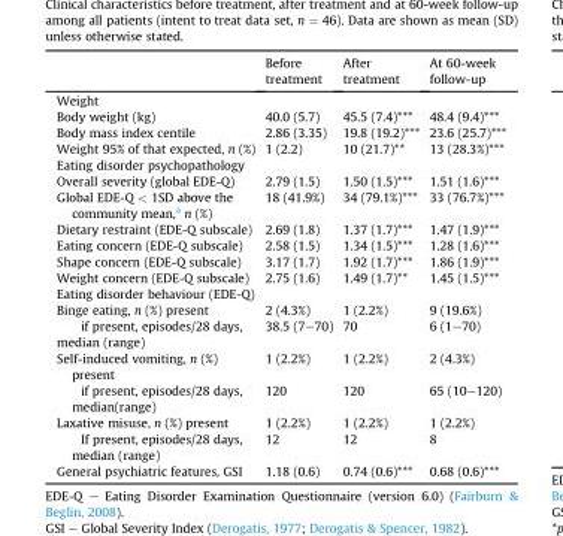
<table><thead><tr><td></td><td>Before treatment</td><td>After treatment</td><td>At 60-week follow-up</td></tr></thead><tbody><tr><td colspan="4">Weight</td></tr><tr><td>Body weight (kg)</td><td>40.0 (5.7)</td><td>45.5 (7.4)***</td><td>48.4 (9.4)***</td></tr><tr><td>Body mass index centile</td><td>2.86 (3.35)</td><td>19.8 (19.2)***</td><td>23.6 (25.7)***</td></tr><tr><td>Weight 95% of that expected, n (%)</td><td>1 (2.2)</td><td>10 (21.7)**</td><td>13 (28.3%)***</td></tr><tr><td colspan="4">Eating disorder psychopathology</td></tr><tr><td>Overall severity (global EDE-Q)</td><td>2.79 (1.5)</td><td>1.50 (1.5)***</td><td>1.51 (1.6)***</td></tr><tr><td>Global EDE-Q &lt; 1SD above the community mean,<sup>a</sup> n (%)</td><td>18 (41.9%)</td><td>34 (79.1%)***</td><td>33 (76.7%)***</td></tr><tr><td>Dietary restraint (EDE-Q subscale)</td><td>2.69 (1.8)</td><td>1.37 (1.7)***</td><td>1.47 (1.9)***</td></tr><tr><td>Eating concern (EDE-Q subscale)</td><td>2.58 (1.5)</td><td>1.34 (1.5)***</td><td>1.28 (1.6)***</td></tr><tr><td>Shape concern (EDE-Q subscale)</td><td>3.17 (1.7)</td><td>1.92 (1.7)***</td><td>1.86 (1.9)***</td></tr><tr><td>Weight concern (EDE-Q subscale)</td><td>2.75 (1.6)</td><td>1.49 (1.7)**</td><td>1.45 (1.5)***</td></tr><tr><td colspan="4">Eating disorder behaviour (EDE-Q)</td></tr><tr><td>Binge eating, n (%) present</td><td>2 (4.3%)</td><td>1 (2.2%)</td><td>9 (19.6%)</td></tr><tr><td>if present, episodes/28 days, median (range)</td><td>38.5 (7–70)</td><td>70</td><td>6 (1–70)</td></tr><tr><td>Self-induced vomiting, n (%) present</td><td>1 (2.2%)</td><td>1 (2.2%)</td><td>2 (4.3%)</td></tr><tr><td>if present, episodes/28 days, median(range)</td><td>120</td><td>120</td><td>65 (10–120)</td></tr><tr><td>Laxative misuse, n (%) present</td><td>1 (2.2%)</td><td>1 (2.2%)</td><td>1 (2.2%)</td></tr><tr><td>If present, episodes/28 days, median (range)</td><td>12</td><td>12</td><td>8</td></tr><tr><td>General psychiatric features, GSI</td><td>1.18 (0.6)</td><td>0.74 (0.6)***</td><td>0.68 (0.6)***</td></tr></tbody></table>